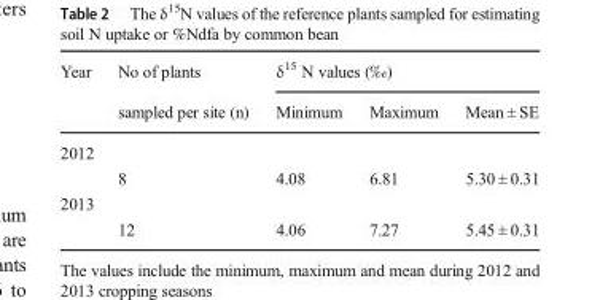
<table><thead><tr><td rowspan="2">Year</td><td rowspan="2">No of plants sampled per site (n)</td><td colspan="3">δ<sup>15</sup> N values (‰)</td></tr><tr><td>Minimum</td><td>Maximum</td><td>Mean ± SE</td></tr></thead><tbody><tr><td colspan="5">2012</td></tr><tr><td></td><td>8</td><td>4.08</td><td>6.81</td><td>5.30 ± 0.31</td></tr><tr><td colspan="5">2013</td></tr><tr><td></td><td>12</td><td>4.06</td><td>7.27</td><td>5.45 ± 0.31</td></tr></tbody></table>